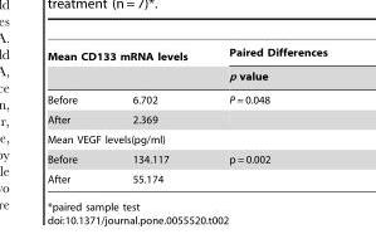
<table><thead><tr><td colspan="2">Mean CD133 mRNA levels</td><td rowspan="2">Paired Differences p value</td></tr><tr><td></td><td></td></tr></thead><tbody><tr><td>Before</td><td>6.702</td><td>P = 0.048</td></tr><tr><td>After</td><td>2.369</td><td></td></tr><tr><td colspan="3">Mean VEGF levels(pg/ml)</td></tr><tr><td>Before</td><td>134.117</td><td>p = 0.002</td></tr><tr><td>After</td><td>55.174</td><td></td></tr></tbody></table>